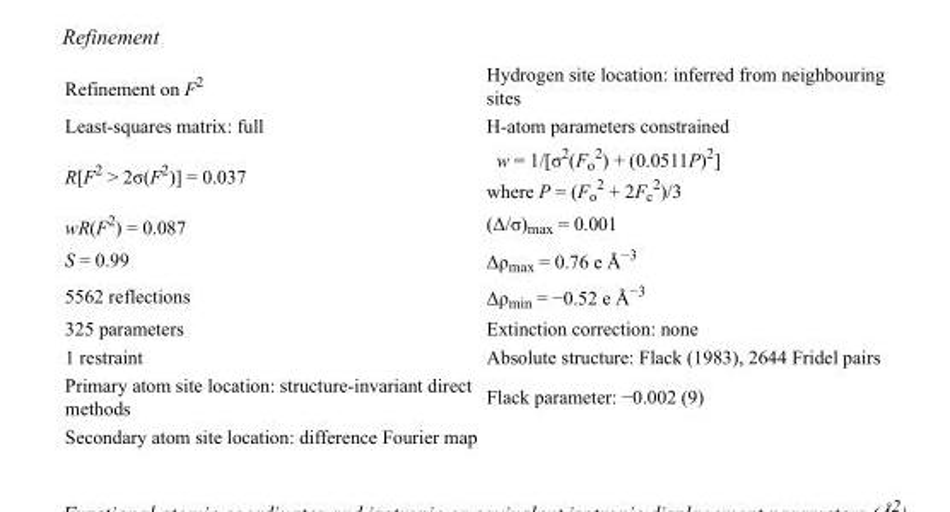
<table><tbody><tr><td>Refinement on F<sup>2</sup></td><td>Hydrogen site location: inferred from neighbouring sites</td></tr><tr><td>Least-squares matrix: full</td><td>H-atom parameters constrained</td></tr><tr><td>R[F<sup>2</sup> &gt; 2σ(F<sup>2</sup>)] = 0.037</td><td>w = 1/[σ<sup>2</sup>(F<sub>o</sub> <sup>2</sup>) + (0.0511P)<sup>2</sup>] where P = (F<sub>o</sub> <sup>2</sup> + 2F<sub>c</sub> <sup>2</sup>)/3</td></tr><tr><td>wR(F<sup>2</sup>) = 0.087</td><td>(Δ/σ)<sub>max</sub> = 0.001</td></tr><tr><td>S = 0.99</td><td>Δρ<sub>max</sub> = 0.76 e Å<sup>−3</sup></td></tr><tr><td>5562 reflections</td><td>Δρ<sub>min</sub> = −0.52 e Å<sup>−3</sup></td></tr><tr><td>325 parameters</td><td>Extinction correction: none</td></tr><tr><td>1 restraint</td><td>Absolute structure: Flack (1983), 2644 Fridel pairs</td></tr><tr><td>Primary atom site location: structure-invariant direct methods</td><td>Flack parameter: −0.002 (9)</td></tr><tr><td>Secondary atom site location: difference Fourier map</td><td></td></tr></tbody></table>